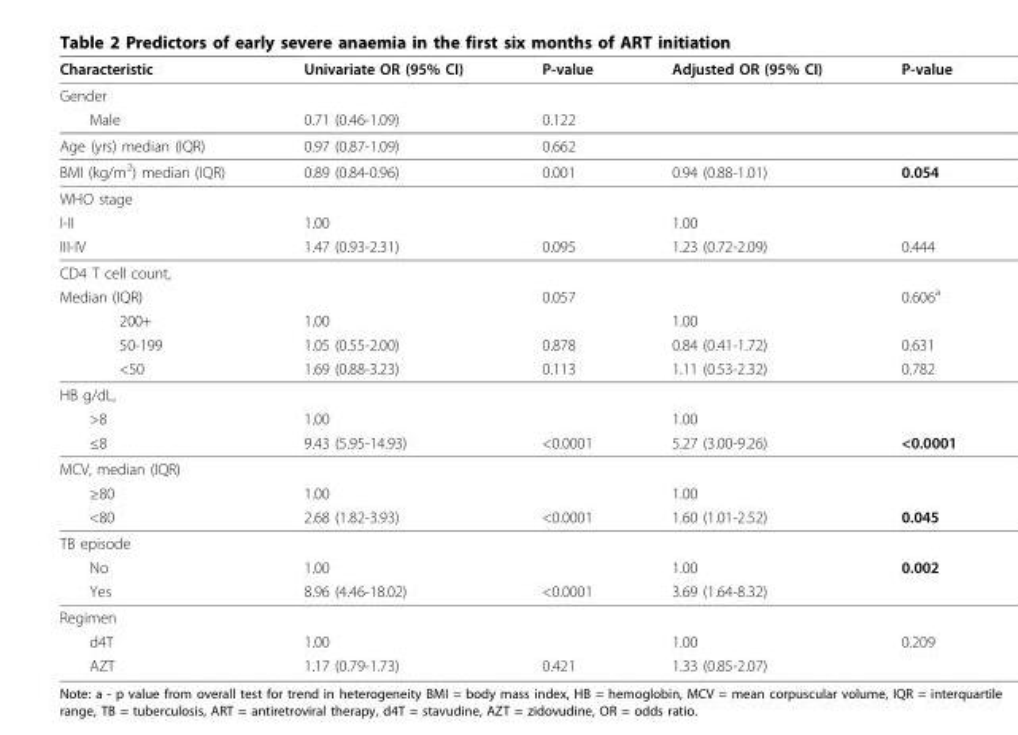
<table><thead><tr><td>Characteristic</td><td>Univariate OR (95% CI)</td><td>P-value</td><td>Adjusted OR (95% CI)</td><td>P-value</td></tr></thead><tbody><tr><td colspan="5">Gender</td></tr><tr><td>Male</td><td>0.71 (0.46-1.09)</td><td>0.122</td><td></td><td></td></tr><tr><td>Age (yrs) median (IQR)</td><td>0.97 (0.87-1.09)</td><td>0.662</td><td></td><td></td></tr><tr><td>BMI (kg/m<sup>2</sup>) median (IQR)</td><td>0.89 (0.84-0.96)</td><td>0.001</td><td>0.94 (0.88-1.01)</td><td>0.054</td></tr><tr><td colspan="5">WHO stage</td></tr><tr><td>I-II</td><td>1.00</td><td></td><td>1.00</td><td></td></tr><tr><td>III-IV</td><td>1.47 (0.93-2.31)</td><td>0.095</td><td>1.23 (0.72-2.09)</td><td>0.444</td></tr><tr><td colspan="5">CD4 T cell count,</td></tr><tr><td>Median (IQR)</td><td></td><td>0.057</td><td></td><td>0.606<sup>a</sup></td></tr><tr><td>200+</td><td>1.00</td><td></td><td>1.00</td><td></td></tr><tr><td>50-199</td><td>1.05 (0.55-2.00)</td><td>0.878</td><td>0.84 (0.41-1.72)</td><td>0.631</td></tr><tr><td>&lt;50</td><td>1.69 (0.88-3.23)</td><td>0.113</td><td>1.11 (0.53-2.32)</td><td>0.782</td></tr><tr><td colspan="5">HB g/dL,</td></tr><tr><td>&gt;8</td><td>1.00</td><td></td><td>1.00</td><td></td></tr><tr><td>≤8</td><td>9.43 (5.95-14.93)</td><td>&lt;0.0001</td><td>5.27 (3.00-9.26)</td><td>&lt;0.0001</td></tr><tr><td colspan="5">MCV, median (IQR)</td></tr><tr><td>≥80</td><td>1.00</td><td></td><td>1.00</td><td></td></tr><tr><td>&lt;80</td><td>2.68 (1.82-3.93)</td><td>&lt;0.0001</td><td>1.60 (1.01-2.52)</td><td>0.045</td></tr><tr><td colspan="5">TB episode</td></tr><tr><td>No</td><td>1.00</td><td></td><td>1.00</td><td>0.002</td></tr><tr><td>Yes</td><td>8.96 (4.46-18.02)</td><td>&lt;0.0001</td><td>3.69 (1.64-8.32)</td><td></td></tr><tr><td colspan="5">Regimen</td></tr><tr><td>d4T</td><td>1.00</td><td></td><td>1.00</td><td>0.209</td></tr><tr><td>AZT</td><td>1.17 (0.79-1.73)</td><td>0.421</td><td>1.33 (0.85-2.07)</td><td></td></tr></tbody></table>